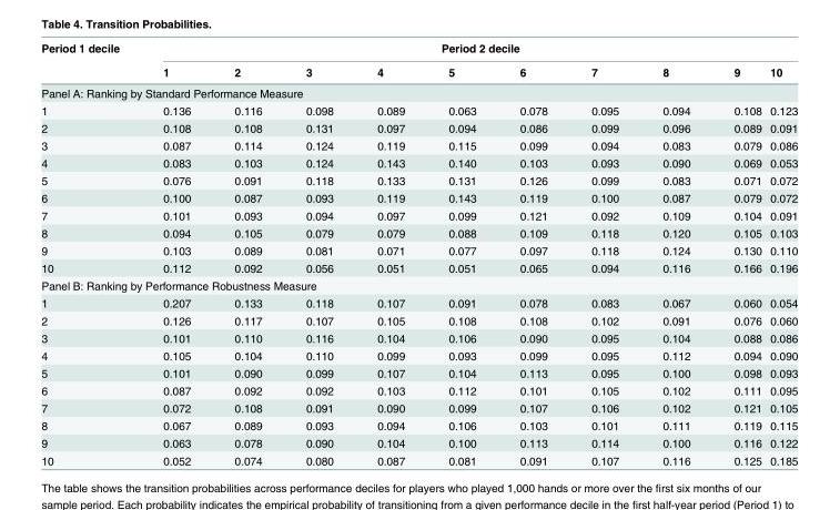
<table><thead><tr><td rowspan="2">Period 1 decile</td><td colspan="10">Period 2 decile</td></tr><tr><td>1</td><td>2</td><td>3</td><td>4</td><td>5</td><td>6</td><td>7</td><td>8</td><td>9</td><td>10</td></tr></thead><tbody><tr><td colspan="11">Panel A: Ranking by Standard Performance Measure</td></tr><tr><td>1</td><td>0.136</td><td>0.116</td><td>0.098</td><td>0.089</td><td>0.063</td><td>0.078</td><td>0.095</td><td>0.094</td><td>0.108</td><td>0.123</td></tr><tr><td>2</td><td>0.108</td><td>0.108</td><td>0.131</td><td>0.097</td><td>0.094</td><td>0.086</td><td>0.099</td><td>0.096</td><td>0.089</td><td>0.091</td></tr><tr><td>3</td><td>0.087</td><td>0.114</td><td>0.124</td><td>0.119</td><td>0.115</td><td>0.099</td><td>0.094</td><td>0.083</td><td>0.079</td><td>0.086</td></tr><tr><td>4</td><td>0.083</td><td>0.103</td><td>0.124</td><td>0.143</td><td>0.140</td><td>0.103</td><td>0.093</td><td>0.090</td><td>0.069</td><td>0.053</td></tr><tr><td>5</td><td>0.076</td><td>0.091</td><td>0.118</td><td>0.133</td><td>0.131</td><td>0.126</td><td>0.099</td><td>0.083</td><td>0.071</td><td>0.072</td></tr><tr><td>6</td><td>0.100</td><td>0.087</td><td>0.093</td><td>0.119</td><td>0.143</td><td>0.119</td><td>0.100</td><td>0.087</td><td>0.079</td><td>0.072</td></tr><tr><td>7</td><td>0.101</td><td>0.093</td><td>0.094</td><td>0.097</td><td>0.099</td><td>0.121</td><td>0.092</td><td>0.109</td><td>0.104</td><td>0.091</td></tr><tr><td>8</td><td>0.094</td><td>0.105</td><td>0.079</td><td>0.079</td><td>0.088</td><td>0.109</td><td>0.118</td><td>0.120</td><td>0.105</td><td>0.103</td></tr><tr><td>9</td><td>0.103</td><td>0.089</td><td>0.081</td><td>0.071</td><td>0.077</td><td>0.097</td><td>0.118</td><td>0.124</td><td>0.130</td><td>0.110</td></tr><tr><td>10</td><td>0.112</td><td>0.092</td><td>0.056</td><td>0.051</td><td>0.051</td><td>0.065</td><td>0.094</td><td>0.116</td><td>0.166</td><td>0.196</td></tr><tr><td colspan="11">Panel B: Ranking by Performance Robustness Measure</td></tr><tr><td>1</td><td>0.207</td><td>0.133</td><td>0.118</td><td>0.107</td><td>0.091</td><td>0.078</td><td>0.083</td><td>0.067</td><td>0.060</td><td>0.054</td></tr><tr><td>2</td><td>0.126</td><td>0.117</td><td>0.107</td><td>0.105</td><td>0.108</td><td>0.108</td><td>0.102</td><td>0.091</td><td>0.076</td><td>0.060</td></tr><tr><td>3</td><td>0.101</td><td>0.110</td><td>0.116</td><td>0.104</td><td>0.106</td><td>0.090</td><td>0.095</td><td>0.104</td><td>0.088</td><td>0.086</td></tr><tr><td>4</td><td>0.105</td><td>0.104</td><td>0.110</td><td>0.099</td><td>0.093</td><td>0.099</td><td>0.095</td><td>0.112</td><td>0.094</td><td>0.090</td></tr><tr><td>5</td><td>0.101</td><td>0.090</td><td>0.099</td><td>0.107</td><td>0.104</td><td>0.113</td><td>0.095</td><td>0.100</td><td>0.098</td><td>0.093</td></tr><tr><td>6</td><td>0.087</td><td>0.092</td><td>0.092</td><td>0.103</td><td>0.112</td><td>0.101</td><td>0.105</td><td>0.102</td><td>0.111</td><td>0.095</td></tr><tr><td>7</td><td>0.072</td><td>0.108</td><td>0.091</td><td>0.090</td><td>0.099</td><td>0.107</td><td>0.106</td><td>0.102</td><td>0.121</td><td>0.105</td></tr><tr><td>8</td><td>0.067</td><td>0.089</td><td>0.093</td><td>0.094</td><td>0.106</td><td>0.103</td><td>0.101</td><td>0.111</td><td>0.119</td><td>0.115</td></tr><tr><td>9</td><td>0.063</td><td>0.078</td><td>0.090</td><td>0.104</td><td>0.100</td><td>0.113</td><td>0.114</td><td>0.100</td><td>0.116</td><td>0.122</td></tr><tr><td>10</td><td>0.052</td><td>0.074</td><td>0.080</td><td>0.087</td><td>0.081</td><td>0.091</td><td>0.107</td><td>0.116</td><td>0.125</td><td>0.185</td></tr></tbody></table>